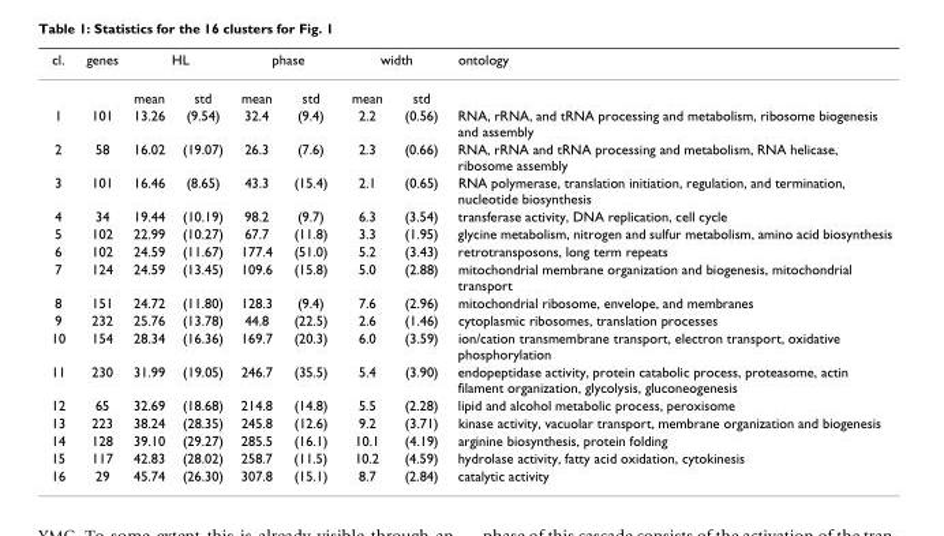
<table><thead><tr><td rowspan="2">cl.</td><td rowspan="2">genes</td><td colspan="2">HL</td><td colspan="2">phase</td><td colspan="2">width</td><td rowspan="2">ontology</td></tr><tr><td>mean</td><td>std</td><td>mean</td><td>std</td><td>mean</td><td>std</td></tr></thead><tbody><tr><td>1</td><td>101</td><td>13.26</td><td>(9.54)</td><td>32.4</td><td>(9.4)</td><td>2.2</td><td>(0.56)</td><td>RNA, rRNA, and tRNA processing and metabolism, ribosome biogenesis and assembly</td></tr><tr><td>2</td><td>58</td><td>16.02</td><td>(19.07)</td><td>26.3</td><td>(7.6)</td><td>2.3</td><td>(0.66)</td><td>RNA, rRNA and tRNA processing and metabolism, RNA helicase, ribosome assembly</td></tr><tr><td>3</td><td>101</td><td>16.46</td><td>(8.65)</td><td>43.3</td><td>(15.4)</td><td>2.1</td><td>(0.65)</td><td>RNA polymerase, translation initiation, regulation, and termination, nucleotide biosynthesis</td></tr><tr><td>4</td><td>34</td><td>19.44</td><td>(10.19)</td><td>98.2</td><td>(9.7)</td><td>6.3</td><td>(3.54)</td><td>transferase activity, DNA replication, cell cycle</td></tr><tr><td>5</td><td>102</td><td>22.99</td><td>(10.27)</td><td>67.7</td><td>(11.8)</td><td>3.3</td><td>(1.95)</td><td>glycine metabolism, nitrogen and sulfur metabolism, amino acid biosynthesis</td></tr><tr><td>6</td><td>102</td><td>24.59</td><td>(11.67)</td><td>177.4</td><td>(51.0)</td><td>5.2</td><td>(3.43)</td><td>retrotransposons, long term repeats</td></tr><tr><td>7</td><td>124</td><td>24.59</td><td>(13.45)</td><td>109.6</td><td>(15.8)</td><td>5.0</td><td>(2.88)</td><td>mitochondrial membrane organization and biogenesis, mitochondrial transport</td></tr><tr><td>8</td><td>151</td><td>24.72</td><td>(11.80)</td><td>128.3</td><td>(9.4)</td><td>7.6</td><td>(2.96)</td><td>mitochondrial ribosome, envelope, and membranes</td></tr><tr><td>9</td><td>232</td><td>25.76</td><td>(13.78)</td><td>44.8</td><td>(22.5)</td><td>2.6</td><td>(1.46)</td><td>cytoplasmic ribosomes, translation processes</td></tr><tr><td>10</td><td>154</td><td>28.34</td><td>(16.36)</td><td>169.7</td><td>(20.3)</td><td>6.0</td><td>(3.59)</td><td>ion/cation transmembrane transport, electron transport, oxidative phosphorylation</td></tr><tr><td>11</td><td>230</td><td>31.99</td><td>(19.05)</td><td>246.7</td><td>(35.5)</td><td>5.4</td><td>(3.90)</td><td>endopeptidase activity, protein catabolic process, proteasome, actin filament organization, glycolysis, gluconeogenesis</td></tr><tr><td>12</td><td>65</td><td>32.69</td><td>(18.68)</td><td>214.8</td><td>(14.8)</td><td>5.5</td><td>(2.28)</td><td>lipid and alcohol metabolic process, peroxisome</td></tr><tr><td>13</td><td>223</td><td>38.24</td><td>(28.35)</td><td>245.8</td><td>(12.6)</td><td>9.2</td><td>(3.71)</td><td>kinase activity, vacuolar transport, membrane organization and biogenesis</td></tr><tr><td>14</td><td>128</td><td>39.10</td><td>(29.27)</td><td>285.5</td><td>(16.1)</td><td>10.1</td><td>(4.19)</td><td>arginine biosynthesis, protein folding</td></tr><tr><td>15</td><td>117</td><td>42.83</td><td>(28.02)</td><td>258.7</td><td>(11.5)</td><td>10.2</td><td>(4.59)</td><td>hydrolase activity, fatty acid oxidation, cytokinesis</td></tr><tr><td>16</td><td>29</td><td>45.74</td><td>(26.30)</td><td>307.8</td><td>(15.1)</td><td>8.7</td><td>(2.84)</td><td>catalytic activity</td></tr></tbody></table>